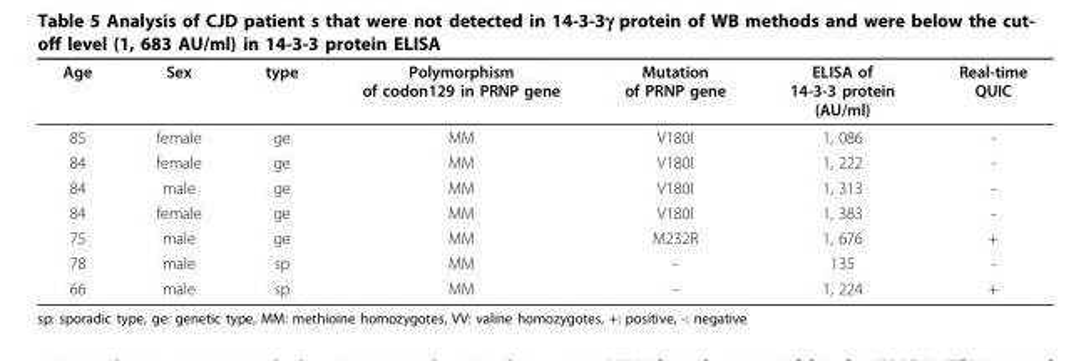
<table><thead><tr><td>Age</td><td>Sex</td><td>type</td><td>Polymorphism of codon129 in PRNP gene</td><td>Mutation of PRNP gene</td><td>ELISA of 14-3-3 protein (AU/ml)</td><td>Real-time QUIC</td></tr></thead><tbody><tr><td>85</td><td>female</td><td>ge</td><td>MM</td><td>V180I</td><td>1, 086</td><td>-</td></tr><tr><td>84</td><td>female</td><td>ge</td><td>MM</td><td>V180I</td><td>1, 222</td><td>-</td></tr><tr><td>84</td><td>male</td><td>ge</td><td>MM</td><td>V180I</td><td>1, 313</td><td>-</td></tr><tr><td>84</td><td>female</td><td>ge</td><td>MM</td><td>V180I</td><td>1, 383</td><td>-</td></tr><tr><td>75</td><td>male</td><td>ge</td><td>MM</td><td>M232R</td><td>1, 676</td><td>+</td></tr><tr><td>78</td><td>male</td><td>sp</td><td>MM</td><td>-</td><td>135</td><td>-</td></tr><tr><td>66</td><td>male</td><td>sp</td><td>MM</td><td>-</td><td>1, 224</td><td>+</td></tr></tbody></table>